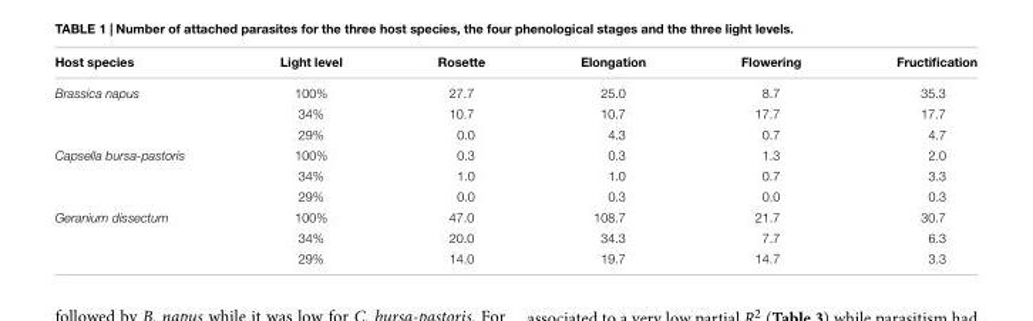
<table><thead><tr><td>Host species</td><td>Light level</td><td>Rosette</td><td>Elongation</td><td>Flowering</td><td>Fructification</td></tr></thead><tbody><tr><td rowspan="3">Brassica napus</td><td>100%</td><td>27.7</td><td>25.0</td><td>8.7</td><td>35.3</td></tr><tr><td>34%</td><td>10.7</td><td>10.7</td><td>17.7</td><td>17.7</td></tr><tr><td>29%</td><td>0.0</td><td>4.3</td><td>0.7</td><td>4.7</td></tr><tr><td rowspan="3">Capsella bursa-pastoris</td><td>100%</td><td>0.3</td><td>0.3</td><td>1.3</td><td>2.0</td></tr><tr><td>34%</td><td>1.0</td><td>1.0</td><td>0.7</td><td>3.3</td></tr><tr><td>29%</td><td>0.0</td><td>0.3</td><td>0.0</td><td>0.3</td></tr><tr><td rowspan="3">Geranium dissectum</td><td>100%</td><td>47.0</td><td>108.7</td><td>21.7</td><td>30.7</td></tr><tr><td>34%</td><td>20.0</td><td>34.3</td><td>7.7</td><td>6.3</td></tr><tr><td>29%</td><td>14.0</td><td>19.7</td><td>14.7</td><td>3.3</td></tr></tbody></table>